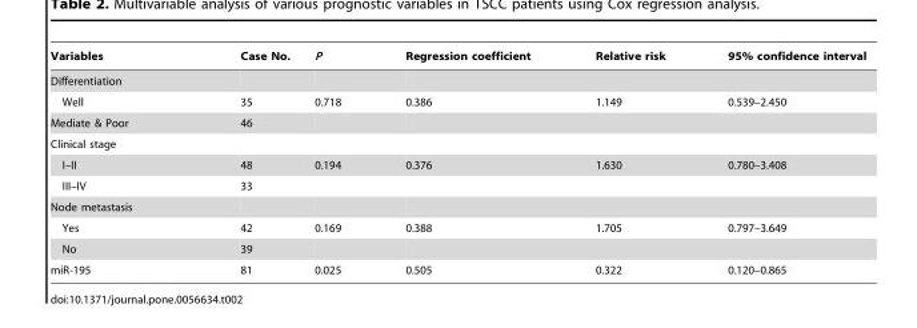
<table><thead><tr><td>Variables</td><td>Case No.</td><td>P</td><td>Regression coefficient</td><td>Relative risk</td><td>95% confidence interval</td></tr></thead><tbody><tr><td colspan="6">Differentiation</td></tr><tr><td>Well</td><td>35</td><td>0.718</td><td>0.386</td><td>1.149</td><td>0.539–2.450</td></tr><tr><td>Mediate &amp; Poor</td><td>46</td><td></td><td></td><td></td><td></td></tr><tr><td colspan="6">Clinical stage</td></tr><tr><td>I–II</td><td>48</td><td>0.194</td><td>0.376</td><td>1.630</td><td>0.780–3.408</td></tr><tr><td>III–IV</td><td>33</td><td></td><td></td><td></td><td></td></tr><tr><td colspan="6">Node metastasis</td></tr><tr><td>Yes</td><td>42</td><td>0.169</td><td>0.388</td><td>1.705</td><td>0.797–3.649</td></tr><tr><td>No</td><td>39</td><td></td><td></td><td></td><td></td></tr><tr><td>miR-195</td><td>81</td><td>0.025</td><td>0.505</td><td>0.322</td><td>0.120–0.865</td></tr></tbody></table>